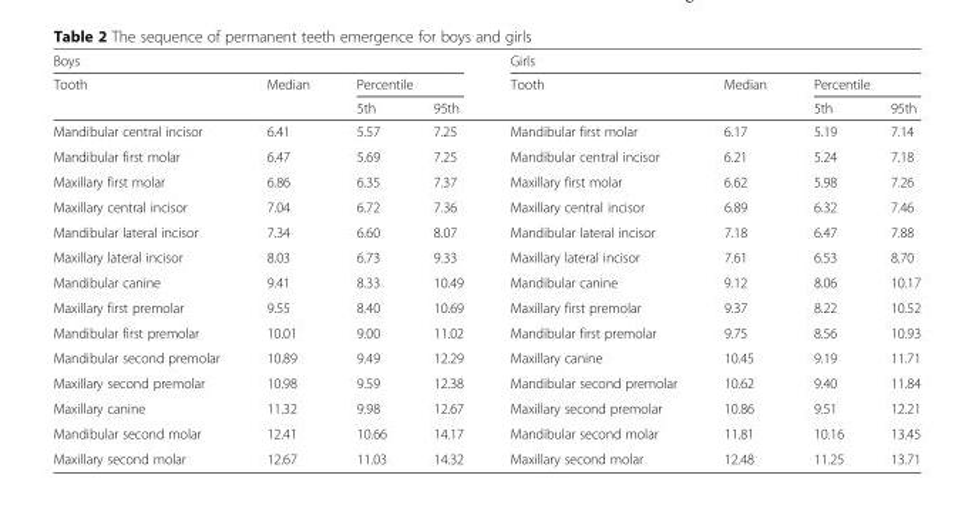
<table><thead><tr><td colspan="4">Boys</td><td colspan="4">Girls</td></tr><tr><td rowspan="2">Tooth</td><td rowspan="2">Median</td><td colspan="2">Percentile</td><td rowspan="2">Tooth</td><td rowspan="2">Median</td><td colspan="2">Percentile</td></tr><tr><td>5th</td><td>95th</td><td>5th</td><td>95th</td></tr></thead><tbody><tr><td>Mandibular central incisor</td><td>6.41</td><td>5.57</td><td>7.25</td><td>Mandibular first molar</td><td>6.17</td><td>5.19</td><td>7.14</td></tr><tr><td>Mandibular first molar</td><td>6.47</td><td>5.69</td><td>7.25</td><td>Mandibular central incisor</td><td>6.21</td><td>5.24</td><td>7.18</td></tr><tr><td>Maxillary first molar</td><td>6.86</td><td>6.35</td><td>7.37</td><td>Maxillary first molar</td><td>6.62</td><td>5.98</td><td>7.26</td></tr><tr><td>Maxillary central incisor</td><td>7.04</td><td>6.72</td><td>7.36</td><td>Maxillary central incisor</td><td>6.89</td><td>6.32</td><td>7.46</td></tr><tr><td>Mandibular lateral incisor</td><td>7.34</td><td>6.60</td><td>8.07</td><td>Mandibular lateral incisor</td><td>7.18</td><td>6.47</td><td>7.88</td></tr><tr><td>Maxillary lateral incisor</td><td>8.03</td><td>6.73</td><td>9.33</td><td>Maxillary lateral incisor</td><td>7.61</td><td>6.53</td><td>8.70</td></tr><tr><td>Mandibular canine</td><td>9.41</td><td>8.33</td><td>10.49</td><td>Mandibular canine</td><td>9.12</td><td>8.06</td><td>10.17</td></tr><tr><td>Maxillary first premolar</td><td>9.55</td><td>8.40</td><td>10.69</td><td>Maxillary first premolar</td><td>9.37</td><td>8.22</td><td>10.52</td></tr><tr><td>Mandibular first premolar</td><td>10.01</td><td>9.00</td><td>11.02</td><td>Mandibular first premolar</td><td>9.75</td><td>8.56</td><td>10.93</td></tr><tr><td>Mandibular second premolar</td><td>10.89</td><td>9.49</td><td>12.29</td><td>Maxillary canine</td><td>10.45</td><td>9.19</td><td>11.71</td></tr><tr><td>Maxillary second premolar</td><td>10.98</td><td>9.59</td><td>12.38</td><td>Mandibular second premolar</td><td>10.62</td><td>9.40</td><td>11.84</td></tr><tr><td>Maxillary canine</td><td>11.32</td><td>9.98</td><td>12.67</td><td>Maxillary second premolar</td><td>10.86</td><td>9.51</td><td>12.21</td></tr><tr><td>Mandibular second molar</td><td>12.41</td><td>10.66</td><td>14.17</td><td>Mandibular second molar</td><td>11.81</td><td>10.16</td><td>13.45</td></tr><tr><td>Maxillary second molar</td><td>12.67</td><td>11.03</td><td>14.32</td><td>Maxillary second molar</td><td>12.48</td><td>11.25</td><td>13.71</td></tr></tbody></table>